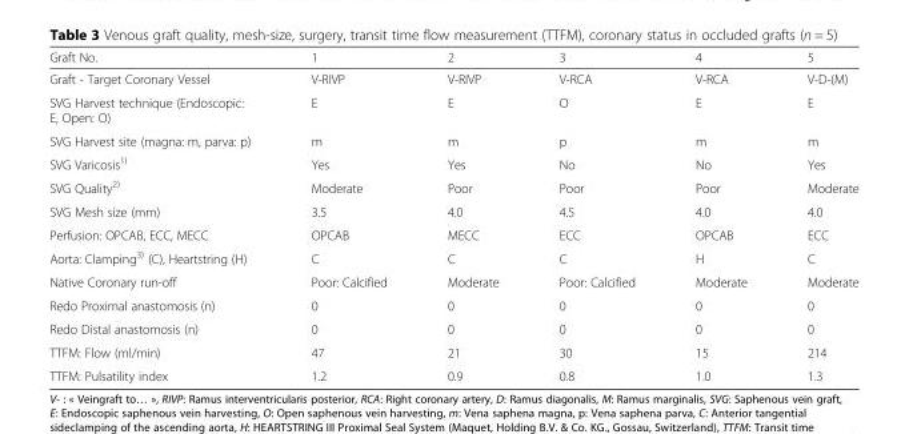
<table><thead><tr><td>Graft No.</td><td>1</td><td>2</td><td>3</td><td>4</td><td>5</td></tr></thead><tbody><tr><td>Graft - Target Coronary Vessel</td><td>V-RIVP</td><td>V-RIVP</td><td>V-RCA</td><td>V-RCA</td><td>V-D-(M)</td></tr><tr><td>SVG Harvest technique (Endoscopic: E, Open: O)</td><td>E</td><td>E</td><td>O</td><td>E</td><td>E</td></tr><tr><td>SVG Harvest site (magna: m, parva: p)</td><td>m</td><td>m</td><td>p</td><td>m</td><td>m</td></tr><tr><td>SVG Varicosis<sup>1)</sup></td><td>Yes</td><td>Yes</td><td>No</td><td>No</td><td>Yes</td></tr><tr><td>SVG Quality<sup>2)</sup></td><td>Moderate</td><td>Poor</td><td>Poor</td><td>Poor</td><td>Moderate</td></tr><tr><td>SVG Mesh size (mm)</td><td>3.5</td><td>4.0</td><td>4.5</td><td>4.0</td><td>4.0</td></tr><tr><td>Perfusion: OPCAB, ECC, MECC</td><td>OPCAB</td><td>MECC</td><td>ECC</td><td>OPCAB</td><td>ECC</td></tr><tr><td>Aorta: Clamping<sup>3)</sup> (C), Heartstring (H)</td><td>C</td><td>C</td><td>C</td><td>H</td><td>C</td></tr><tr><td>Native Coronary run-off</td><td>Poor: Calcified</td><td>Moderate</td><td>Poor: Calcified</td><td>Moderate</td><td>Moderate</td></tr><tr><td>Redo Proximal anastomosis (n)</td><td>0</td><td>0</td><td>0</td><td>0</td><td>0</td></tr><tr><td>Redo Distal anastomosis (n)</td><td>0</td><td>0</td><td>0</td><td>0</td><td>0</td></tr><tr><td>TTFM: Flow (ml/min)</td><td>47</td><td>21</td><td>30</td><td>15</td><td>214</td></tr><tr><td>TTFM: Pulsatility index</td><td>1.2</td><td>0.9</td><td>0.8</td><td>1.0</td><td>1.3</td></tr></tbody></table>